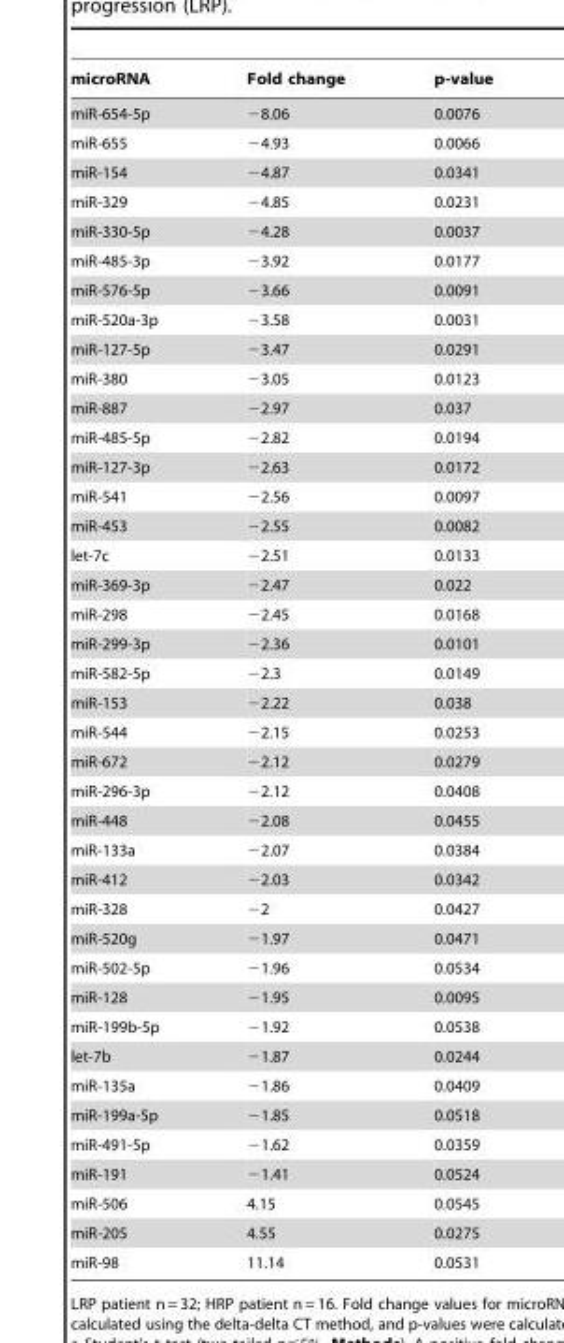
<table><thead><tr><td>microRNA</td><td>Fold change</td><td>p-value</td></tr></thead><tbody><tr><td>miR-654-5p</td><td>−8.06</td><td>0.0076</td></tr><tr><td>miR-655</td><td>−4.93</td><td>0.0066</td></tr><tr><td>miR-154</td><td>−4.87</td><td>0.0341</td></tr><tr><td>miR-329</td><td>−4.85</td><td>0.0231</td></tr><tr><td>miR-330-5p</td><td>−4.28</td><td>0.0037</td></tr><tr><td>miR-485-3p</td><td>−3.92</td><td>0.0177</td></tr><tr><td>miR-576-5p</td><td>−3.66</td><td>0.0091</td></tr><tr><td>miR-520a-3p</td><td>−3.58</td><td>0.0031</td></tr><tr><td>miR-127-5p</td><td>−3.47</td><td>0.0291</td></tr><tr><td>miR-380</td><td>−3.05</td><td>0.0123</td></tr><tr><td>miR-887</td><td>−2.97</td><td>0.037</td></tr><tr><td>miR-485-5p</td><td>−2.82</td><td>0.0194</td></tr><tr><td>miR-127-3p</td><td>−2.63</td><td>0.0172</td></tr><tr><td>miR-541</td><td>−2.56</td><td>0.0097</td></tr><tr><td>miR-453</td><td>−2.55</td><td>0.0082</td></tr><tr><td>let-7c</td><td>−2.51</td><td>0.0133</td></tr><tr><td>miR-369-3p</td><td>−2.47</td><td>0.022</td></tr><tr><td>miR-298</td><td>−2.45</td><td>0.0168</td></tr><tr><td>miR-299-3p</td><td>−2.36</td><td>0.0101</td></tr><tr><td>miR-582-5p</td><td>−2.3</td><td>0.0149</td></tr><tr><td>miR-153</td><td>−2.22</td><td>0.038</td></tr><tr><td>miR-544</td><td>−2.15</td><td>0.0253</td></tr><tr><td>miR-672</td><td>−2.12</td><td>0.0279</td></tr><tr><td>miR-296-3p</td><td>−2.12</td><td>0.0408</td></tr><tr><td>miR-448</td><td>−2.08</td><td>0.0455</td></tr><tr><td>miR-133a</td><td>−2.07</td><td>0.0384</td></tr><tr><td>miR-412</td><td>−2.03</td><td>0.0342</td></tr><tr><td>miR-328</td><td>−2</td><td>0.0427</td></tr><tr><td>miR-520g</td><td>−1.97</td><td>0.0471</td></tr><tr><td>miR-502-5p</td><td>−1.96</td><td>0.0534</td></tr><tr><td>miR-128</td><td>−1.95</td><td>0.0095</td></tr><tr><td>miR-199b-5p</td><td>−1.92</td><td>0.0538</td></tr><tr><td>let-7b</td><td>−1.87</td><td>0.0244</td></tr><tr><td>miR-135a</td><td>−1.86</td><td>0.0409</td></tr><tr><td>miR-199a-5p</td><td>−1.85</td><td>0.0518</td></tr><tr><td>miR-491-5p</td><td>−1.62</td><td>0.0359</td></tr><tr><td>miR-191</td><td>−1.41</td><td>0.0524</td></tr><tr><td>miR-506</td><td>4.15</td><td>0.0545</td></tr><tr><td>miR-205</td><td>4.55</td><td>0.0275</td></tr><tr><td>miR-98</td><td>11.14</td><td>0.0531</td></tr></tbody></table>